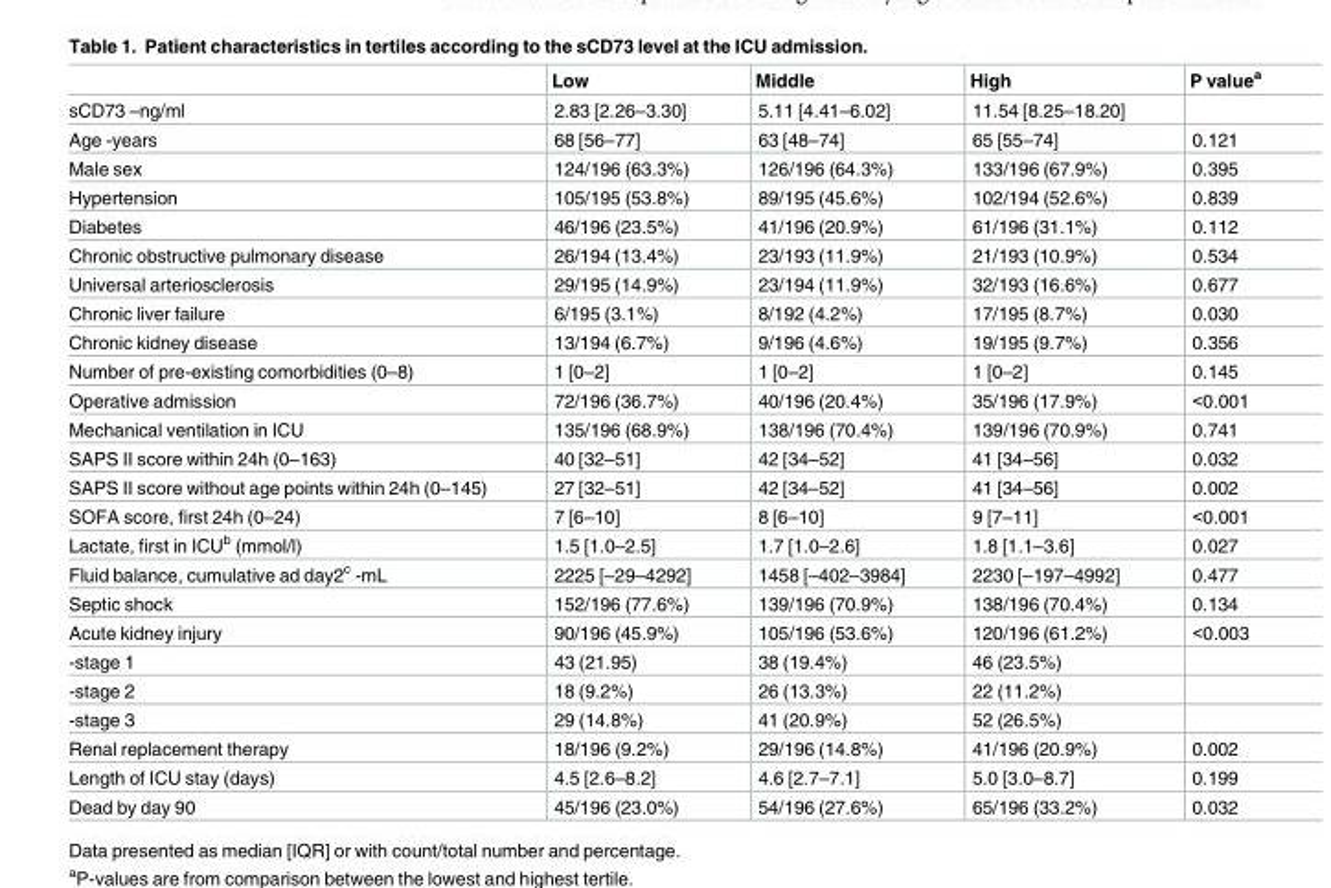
<table><thead><tr><td></td><td>Low</td><td>Middle</td><td>High</td><td>P value<sup>a</sup></td></tr></thead><tbody><tr><td>sCD73 –ng/ml</td><td>2.83 [2.26–3.30]</td><td>5.11 [4.41–6.02]</td><td>11.54 [8.25–18.20]</td><td></td></tr><tr><td>Age -years</td><td>68 [56–77]</td><td>63 [48–74]</td><td>65 [55–74]</td><td>0.121</td></tr><tr><td>Male sex</td><td>124/196 (63.3%)</td><td>126/196 (64.3%)</td><td>133/196 (67.9%)</td><td>0.395</td></tr><tr><td>Hypertension</td><td>105/195 (53.8%)</td><td>89/195 (45.6%)</td><td>102/194 (52.6%)</td><td>0.839</td></tr><tr><td>Diabetes</td><td>46/196 (23.5%)</td><td>41/196 (20.9%)</td><td>61/196 (31.1%)</td><td>0.112</td></tr><tr><td>Chronic obstructive pulmonary disease</td><td>26/194 (13.4%)</td><td>23/193 (11.9%)</td><td>21/193 (10.9%)</td><td>0.534</td></tr><tr><td>Universal arteriosclerosis</td><td>29/195 (14.9%)</td><td>23/194 (11.9%)</td><td>32/193 (16.6%)</td><td>0.677</td></tr><tr><td>Chronic liver failure</td><td>6/195 (3.1%)</td><td>8/192 (4.2%)</td><td>17/195 (8.7%)</td><td>0.030</td></tr><tr><td>Chronic kidney disease</td><td>13/194 (6.7%)</td><td>9/196 (4.6%)</td><td>19/195 (9.7%)</td><td>0.356</td></tr><tr><td>Number of pre-existing comorbidities (0–8)</td><td>1 [0–2]</td><td>1 [0–2]</td><td>1 [0–2]</td><td>0.145</td></tr><tr><td>Operative admission</td><td>72/196 (36.7%)</td><td>40/196 (20.4%)</td><td>35/196 (17.9%)</td><td>&lt;0.001</td></tr><tr><td>Mechanical ventilation in ICU</td><td>135/196 (68.9%)</td><td>138/196 (70.4%)</td><td>139/196 (70.9%)</td><td>0.741</td></tr><tr><td>SAPS II score within 24h (0–163)</td><td>40 [32–51]</td><td>42 [34–52]</td><td>41 [34–56]</td><td>0.032</td></tr><tr><td>SAPS II score without age points within 24h (0–145)</td><td>27 [32–51]</td><td>42 [34–52]</td><td>41 [34–56]</td><td>0.002</td></tr><tr><td>SOFA score, first 24h (0–24)</td><td>7 [6–10]</td><td>8 [6–10]</td><td>9 [7–11]</td><td>&lt;0.001</td></tr><tr><td>Lactate, first in ICU<sup>b</sup> (mmol/l)</td><td>1.5 [1.0–2.5]</td><td>1.7 [1.0–2.6]</td><td>1.8 [1.1–3.6]</td><td>0.027</td></tr><tr><td>Fluid balance, cumulative ad day2<sup>c</sup> -mL</td><td>2225 [–29–4292]</td><td>1458 [–402–3984]</td><td>2230 [–197–4992]</td><td>0.477</td></tr><tr><td>Septic shock</td><td>152/196 (77.6%)</td><td>139/196 (70.9%)</td><td>138/196 (70.4%)</td><td>0.134</td></tr><tr><td>Acute kidney injury</td><td>90/196 (45.9%)</td><td>105/196 (53.6%)</td><td>120/196 (61.2%)</td><td>&lt;0.003</td></tr><tr><td>-stage 1</td><td>43 (21.95)</td><td>38 (19.4%)</td><td>46 (23.5%)</td><td></td></tr><tr><td>-stage 2</td><td>18 (9.2%)</td><td>26 (13.3%)</td><td>22 (11.2%)</td><td></td></tr><tr><td>-stage 3</td><td>29 (14.8%)</td><td>41 (20.9%)</td><td>52 (26.5%)</td><td></td></tr><tr><td>Renal replacement therapy</td><td>18/196 (9.2%)</td><td>29/196 (14.8%)</td><td>41/196 (20.9%)</td><td>0.002</td></tr><tr><td>Length of ICU stay (days)</td><td>4.5 [2.6–8.2]</td><td>4.6 [2.7–7.1]</td><td>5.0 [3.0–8.7]</td><td>0.199</td></tr><tr><td>Dead by day 90</td><td>45/196 (23.0%)</td><td>54/196 (27.6%)</td><td>65/196 (33.2%)</td><td>0.032</td></tr></tbody></table>